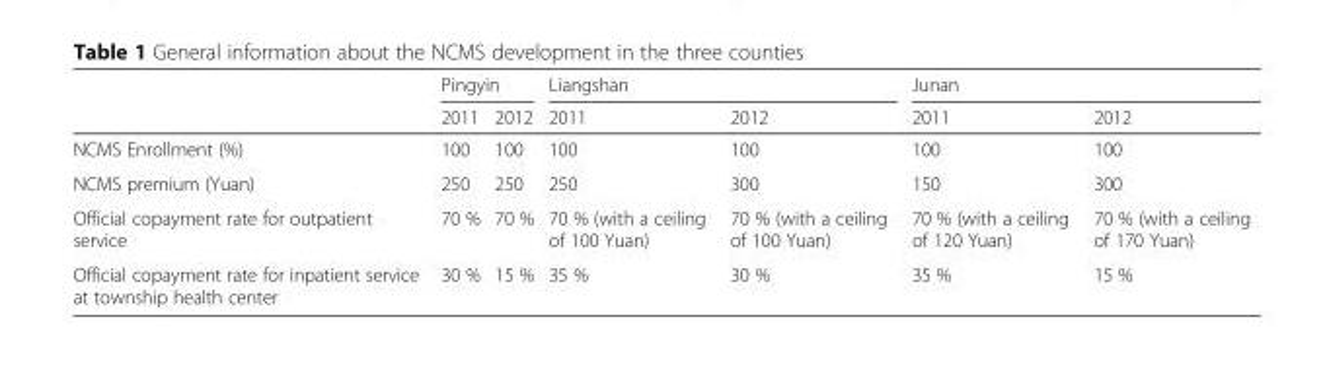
<table><thead><tr><td rowspan="2"></td><td colspan="2">Pingyin</td><td colspan="2">Liangshan</td><td colspan="2">Junan</td></tr><tr><td>2011</td><td>2012</td><td>2011</td><td>2012</td><td>2011</td><td>2012</td></tr></thead><tbody><tr><td>NCMS Enrollment (%)</td><td>100</td><td>100</td><td>100</td><td>100</td><td>100</td><td>100</td></tr><tr><td>NCMS premium (Yuan)</td><td>250</td><td>250</td><td>250</td><td>300</td><td>150</td><td>300</td></tr><tr><td>Official copayment rate for outpatient service</td><td>70 %</td><td>70 %</td><td>70 % (with a ceiling of 100 Yuan)</td><td>70 % (with a ceiling of 100 Yuan)</td><td>70 % (with a ceiling of 120 Yuan)</td><td>70 % (with a ceiling of 170 Yuan)</td></tr><tr><td>Official copayment rate for inpatient service at township health center</td><td>30 %</td><td>15 %</td><td>35 %</td><td>30 %</td><td>35 %</td><td>15 %</td></tr></tbody></table>